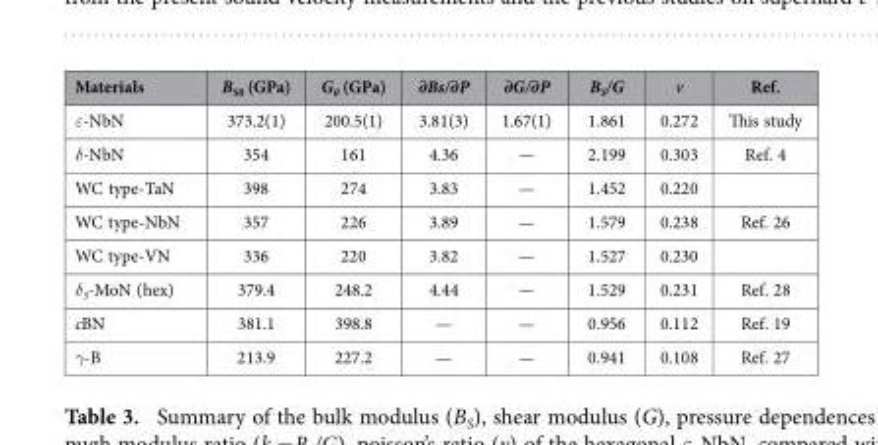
<table><thead><tr><td>Materials</td><td>B<sub>S0</sub> (GPa)</td><td>G<sub>0</sub> (GPa)</td><td>∂Bs/∂P</td><td>∂G/∂P</td><td>B<sub>S</sub>/G</td><td>v</td><td>Ref.</td></tr></thead><tbody><tr><td>ε-NbN</td><td>373.2(1)</td><td>200.5(1)</td><td>3.81(3)</td><td>1.67(1)</td><td>1.861</td><td>0.272</td><td>This study</td></tr><tr><td>δ-NbN</td><td>354</td><td>161</td><td>4.36</td><td>—</td><td>2.199</td><td>0.303</td><td>Ref. 4</td></tr><tr><td>WC type-TaN</td><td>398</td><td>274</td><td>3.83</td><td>—</td><td>1.452</td><td>0.220</td><td></td></tr><tr><td>WC type-NbN</td><td>357</td><td>226</td><td>3.89</td><td>—</td><td>1.579</td><td>0.238</td><td>Ref. 26</td></tr><tr><td>WC type-VN</td><td>336</td><td>220</td><td>3.82</td><td>—</td><td>1.527</td><td>0.230</td><td></td></tr><tr><td>δ<sub>3</sub>-MoN (hex)</td><td>379.4</td><td>248.2</td><td>4.44</td><td>—</td><td>1.529</td><td>0.231</td><td>Ref. 28</td></tr><tr><td>cBN</td><td>381.1</td><td>398.8</td><td>—</td><td>—</td><td>0.956</td><td>0.112</td><td>Ref. 19</td></tr><tr><td>γ-B</td><td>213.9</td><td>227.2</td><td>—</td><td>—</td><td>0.941</td><td>0.108</td><td>Ref. 27</td></tr></tbody></table>